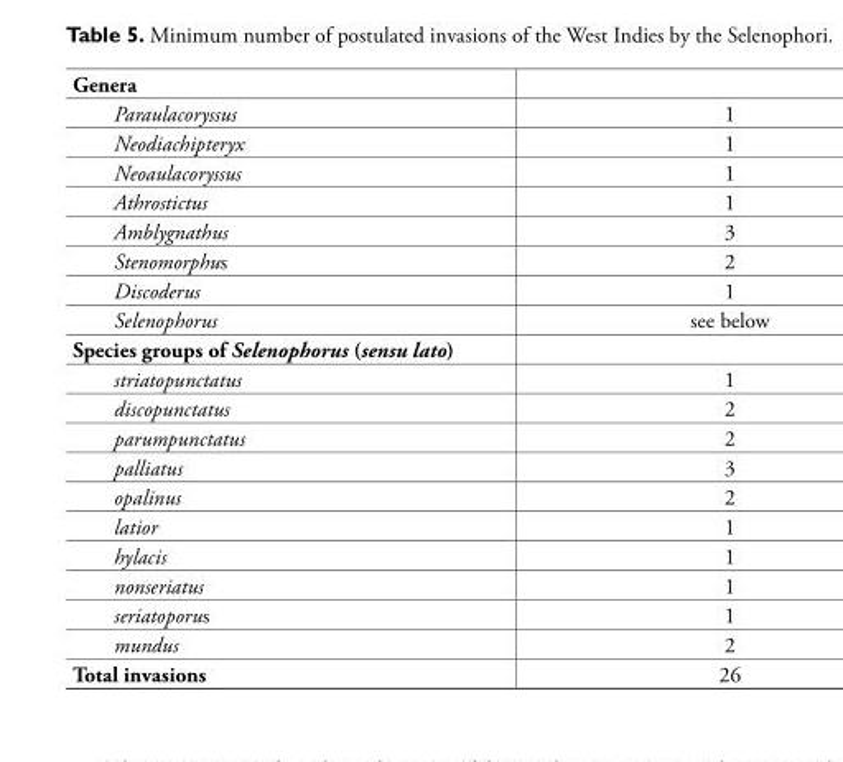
<table><thead><tr><td>Genera</td><td></td></tr></thead><tbody><tr><td>Paraulacoryssus</td><td>1</td></tr><tr><td>Neodiachipteryx</td><td>1</td></tr><tr><td>Neoaulacoryssus</td><td>1</td></tr><tr><td>Athrostictus</td><td>1</td></tr><tr><td>Amblygnathus</td><td>3</td></tr><tr><td>Stenomorphus</td><td>2</td></tr><tr><td>Discoderus</td><td>1</td></tr><tr><td>Selenophorus</td><td>see below</td></tr><tr><td colspan="2">Species groups of Selenophorus (sensu lato)</td></tr><tr><td>striatopunctatus</td><td>1</td></tr><tr><td>discopunctatus</td><td>2</td></tr><tr><td>parumpunctatus</td><td>2</td></tr><tr><td>palliatus</td><td>3</td></tr><tr><td>opalinus</td><td>2</td></tr><tr><td>latior</td><td>1</td></tr><tr><td>hylacis</td><td>1</td></tr><tr><td>nonseriatus</td><td>1</td></tr><tr><td>seriatoporus</td><td>1</td></tr><tr><td>mundus</td><td>2</td></tr><tr><td>Total invasions</td><td>26</td></tr></tbody></table>